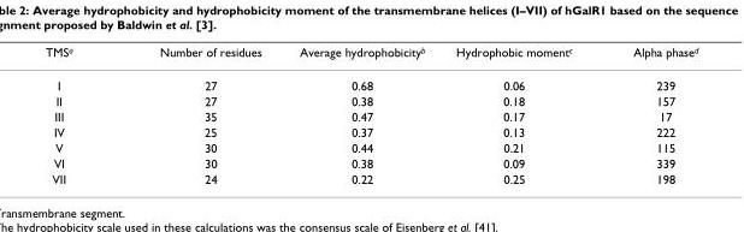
<table><thead><tr><td>TMS<sup>a</sup></td><td>Number of residues</td><td>Average hydrophobicity<sup>b</sup></td><td>Hydrophobic moment<sup>c</sup></td><td>Alpha phase<sup>d</sup></td></tr></thead><tbody><tr><td>I</td><td>27</td><td>0.68</td><td>0.06</td><td>239</td></tr><tr><td>II</td><td>27</td><td>0.38</td><td>0.18</td><td>157</td></tr><tr><td>III</td><td>35</td><td>0.47</td><td>0.17</td><td>17</td></tr><tr><td>IV</td><td>25</td><td>0.37</td><td>0.13</td><td>222</td></tr><tr><td>V</td><td>30</td><td>0.44</td><td>0.21</td><td>115</td></tr><tr><td>VI</td><td>30</td><td>0.38</td><td>0.09</td><td>339</td></tr><tr><td>VII</td><td>24</td><td>0.22</td><td>0.25</td><td>198</td></tr></tbody></table>